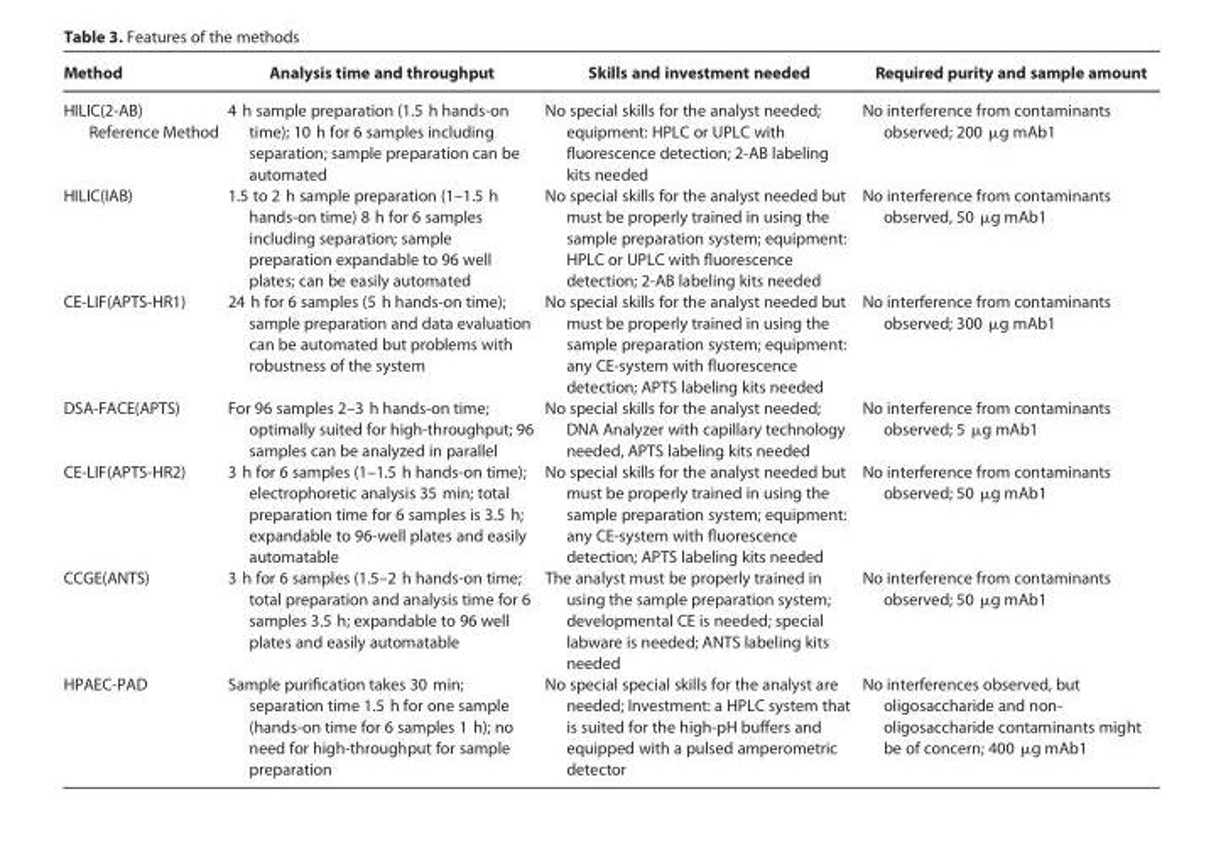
<table><thead><tr><td>Method</td><td>Analysis time and throughput</td><td>Skills and investment needed</td><td>Required purity and sample amount</td></tr></thead><tbody><tr><td>HILIC(2-AB) Reference Method</td><td>4 h sample preparation (1.5 h hands-on time); 10 h for 6 samples including separation; sample preparation can be automated</td><td>No special skills for the analyst needed; equipment: HPLC or UPLC with fluorescence detection; 2-AB labeling kits needed</td><td>No interference from contaminants observed; 200 μg mAb1</td></tr><tr><td>HILIC(IAB)</td><td>1.5 to 2 h sample preparation (1–1.5 h hands-on time) 8 h for 6 samples including separation; sample preparation expandable to 96 well plates; can be easily automated</td><td>No special skills for the analyst needed but must be properly trained in using the sample preparation system; equipment: HPLC or UPLC with fluorescence detection; 2-AB labeling kits needed</td><td>No interference from contaminants observed, 50 μg mAb1</td></tr><tr><td>CE-LIF(APTS-HR1)</td><td>24 h for 6 samples (5 h hands-on time); sample preparation and data evaluation can be automated but problems with robustness of the system</td><td>No special skills for the analyst needed but must be properly trained in using the sample preparation system; equipment: any CE-system with fluorescence detection; APTS labeling kits needed</td><td>No interference from contaminants observed; 300 μg mAb1</td></tr><tr><td>DSA-FACE(APTS)</td><td>For 96 samples 2–3 h hands-on time; optimally suited for high-throughput; 96 samples can be analyzed in parallel</td><td>No special skills for the analyst needed; DNA Analyzer with capillary technology needed, APTS labeling kits needed</td><td>No interference from contaminants observed; 5 μg mAb1</td></tr><tr><td>CE-LIF(APTS-HR2)</td><td>3 h for 6 samples (1–1.5 h hands-on time); electrophoretic analysis 35 min; total preparation time for 6 samples is 3.5 h; expandable to 96-well plates and easily automatable</td><td>No special skills for the analyst needed but must be properly trained in using the sample preparation system; equipment: any CE-system with fluorescence detection; APTS labeling kits needed</td><td>No interference from contaminants observed; 50 μg mAb1</td></tr><tr><td>CCGE(ANTS)</td><td>3 h for 6 samples (1.5–2 h hands-on time; total preparation and analysis time for 6 samples 3.5 h; expandable to 96 well plates and easily automatable</td><td>The analyst must be properly trained in using the sample preparation system; developmental CE is needed; special labware is needed; ANTS labeling kits needed</td><td>No interference from contaminants observed; 50 μg mAb1</td></tr><tr><td>HPAEC-PAD</td><td>Sample purification takes 30 min; separation time 1.5 h for one sample (hands-on time for 6 samples 1 h); no need for high-throughput for sample preparation</td><td>No special special skills for the analyst are needed; Investment: a HPLC system that is suited for the high-pH buffers and equipped with a pulsed amperometric detector</td><td>No interferences observed, but oligosaccharide and non- oligosaccharide contaminants might be of concern; 400 μg mAb1</td></tr></tbody></table>